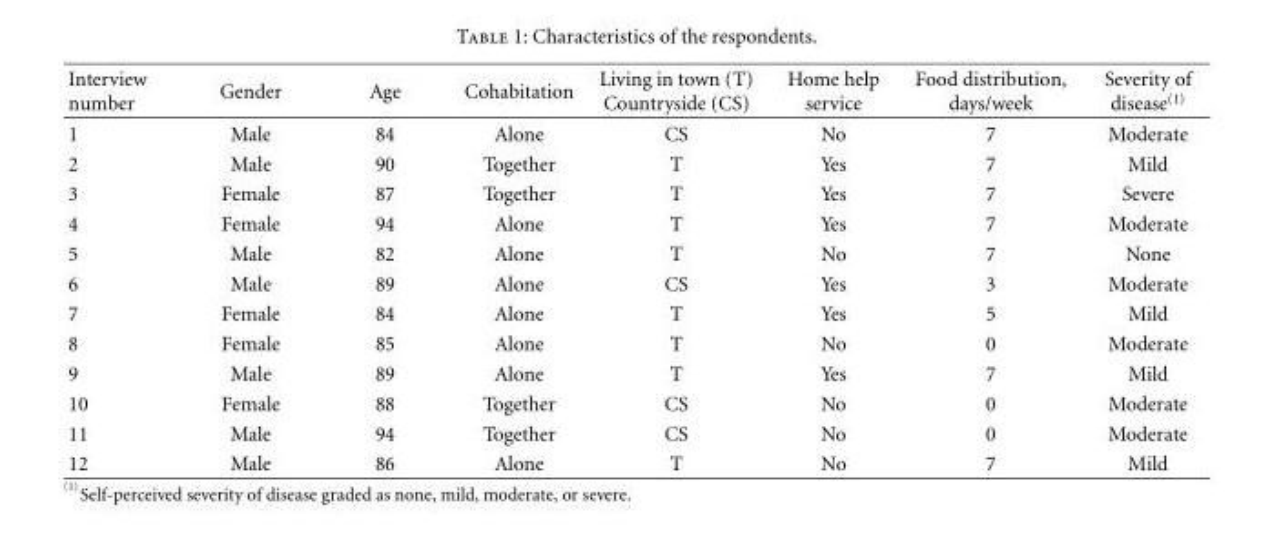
<table><thead><tr><td>Interview number</td><td>Gender</td><td>Age</td><td>Cohabitation</td><td>Living in town (T) Countryside (CS)</td><td>Home help service</td><td>Food distribution, days/week</td><td>Severity of disease<sup>(1)</sup></td></tr></thead><tbody><tr><td>1</td><td>Male</td><td>84</td><td>Alone</td><td>CS</td><td>No</td><td>7</td><td>Moderate</td></tr><tr><td>2</td><td>Male</td><td>90</td><td>Together</td><td>T</td><td>Yes</td><td>7</td><td>Mild</td></tr><tr><td>3</td><td>Female</td><td>87</td><td>Together</td><td>T</td><td>Yes</td><td>7</td><td>Severe</td></tr><tr><td>4</td><td>Female</td><td>94</td><td>Alone</td><td>T</td><td>Yes</td><td>7</td><td>Moderate</td></tr><tr><td>5</td><td>Male</td><td>82</td><td>Alone</td><td>T</td><td>No</td><td>7</td><td>None</td></tr><tr><td>6</td><td>Male</td><td>89</td><td>Alone</td><td>CS</td><td>Yes</td><td>3</td><td>Moderate</td></tr><tr><td>7</td><td>Female</td><td>84</td><td>Alone</td><td>T</td><td>Yes</td><td>5</td><td>Mild</td></tr><tr><td>8</td><td>Female</td><td>85</td><td>Alone</td><td>T</td><td>No</td><td>0</td><td>Moderate</td></tr><tr><td>9</td><td>Male</td><td>89</td><td>Alone</td><td>T</td><td>Yes</td><td>7</td><td>Mild</td></tr><tr><td>10</td><td>Female</td><td>88</td><td>Together</td><td>CS</td><td>No</td><td>0</td><td>Moderate</td></tr><tr><td>11</td><td>Male</td><td>94</td><td>Together</td><td>CS</td><td>No</td><td>0</td><td>Moderate</td></tr><tr><td>12</td><td>Male</td><td>86</td><td>Alone</td><td>T</td><td>No</td><td>7</td><td>Mild</td></tr></tbody></table>